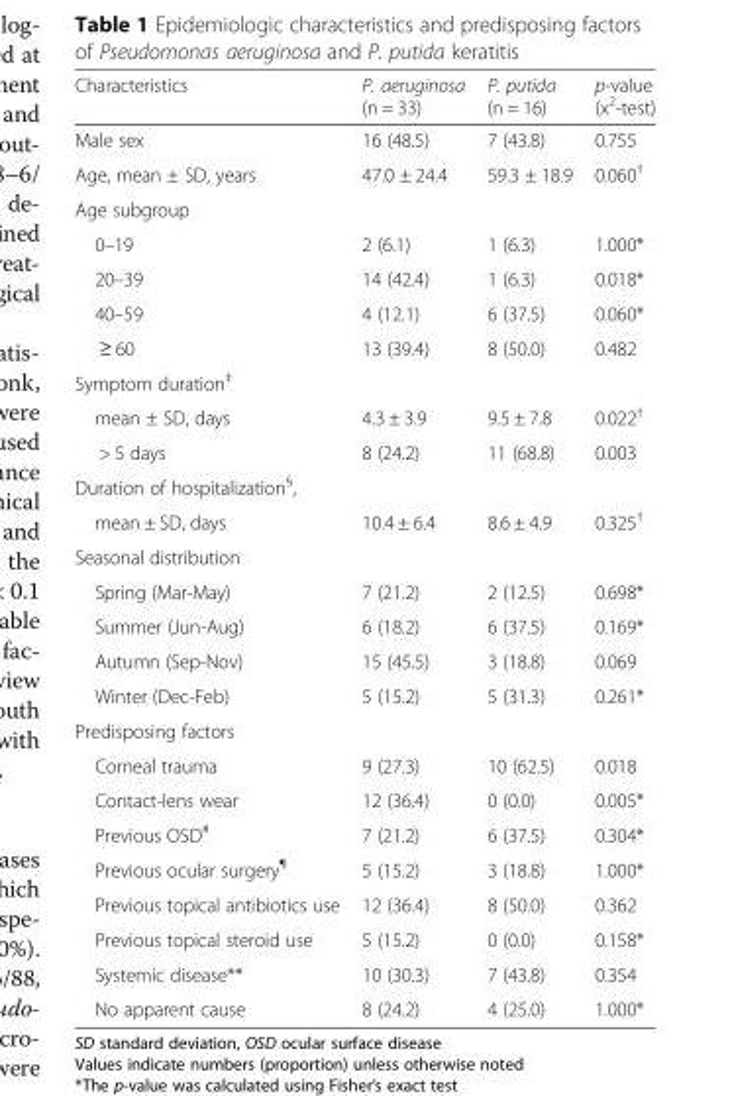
<table><thead><tr><td>Characteristics</td><td>P. aeruginosa (n = 33)</td><td>P. putida (n = 16)</td><td>p-value (x<sup>2</sup>-test)</td></tr></thead><tbody><tr><td>Male sex</td><td>16 (48.5)</td><td>7 (43.8)</td><td>0.755</td></tr><tr><td>Age, mean ± SD, years</td><td>47.0 ± 24.4</td><td>59.3 ± 18.9</td><td>0.060<sup>†</sup></td></tr><tr><td colspan="4">Age subgroup</td></tr><tr><td>0–19</td><td>2 (6.1)</td><td>1 (6.3)</td><td>1.000*</td></tr><tr><td>20–39</td><td>14 (42.4)</td><td>1 (6.3)</td><td>0.018*</td></tr><tr><td>40–59</td><td>4 (12.1)</td><td>6 (37.5)</td><td>0.060*</td></tr><tr><td>≥ 60</td><td>13 (39.4)</td><td>8 (50.0)</td><td>0.482</td></tr><tr><td colspan="4">Symptom duration<sup>‡</sup></td></tr><tr><td>mean ± SD, days</td><td>4.3 ± 3.9</td><td>9.5 ± 7.8</td><td>0.022<sup>†</sup></td></tr><tr><td>&gt; 5 days</td><td>8 (24.2)</td><td>11 (68.8)</td><td>0.003</td></tr><tr><td colspan="4">Duration of hospitalization<sup>§</sup>,</td></tr><tr><td>mean ± SD, days</td><td>10.4 ± 6.4</td><td>8.6 ± 4.9</td><td>0.325<sup>†</sup></td></tr><tr><td colspan="4">Seasonal distribution</td></tr><tr><td>Spring (Mar-May)</td><td>7 (21.2)</td><td>2 (12.5)</td><td>0.698*</td></tr><tr><td>Summer (Jun-Aug)</td><td>6 (18.2)</td><td>6 (37.5)</td><td>0.169*</td></tr><tr><td>Autumn (Sep-Nov)</td><td>15 (45.5)</td><td>3 (18.8)</td><td>0.069</td></tr><tr><td>Winter (Dec-Feb)</td><td>5 (15.2)</td><td>5 (31.3)</td><td>0.261*</td></tr><tr><td colspan="4">Predisposing factors</td></tr><tr><td>Corneal trauma</td><td>9 (27.3)</td><td>10 (62.5)</td><td>0.018</td></tr><tr><td>Contact-lens wear</td><td>12 (36.4)</td><td>0 (0.0)</td><td>0.005*</td></tr><tr><td>Previous OSD<sup>#</sup></td><td>7 (21.2)</td><td>6 (37.5)</td><td>0.304*</td></tr><tr><td>Previous ocular surgery<sup>¶</sup></td><td>5 (15.2)</td><td>3 (18.8)</td><td>1.000*</td></tr><tr><td>Previous topical antibiotics use</td><td>12 (36.4)</td><td>8 (50.0)</td><td>0.362</td></tr><tr><td>Previous topical steroid use</td><td>5 (15.2)</td><td>0 (0.0)</td><td>0.158*</td></tr><tr><td>Systemic disease**</td><td>10 (30.3)</td><td>7 (43.8)</td><td>0.354</td></tr><tr><td>No apparent cause</td><td>8 (24.2)</td><td>4 (25.0)</td><td>1.000*</td></tr></tbody></table>